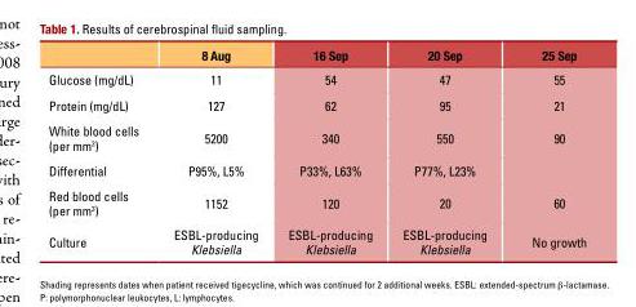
<table><thead><tr><td></td><td>8 Aug</td><td>16 Sep</td><td>20 Sep</td><td>25 Sep</td></tr></thead><tbody><tr><td>Glucose (mg/dL)</td><td></td><td>54</td><td>47</td><td>55</td></tr><tr><td>Protein (mg/dL)</td><td>27</td><td>62</td><td>95</td><td>2</td></tr><tr><td>White blood cells (per mm<sup>3</sup>)</td><td>5200</td><td>340</td><td>550</td><td>90</td></tr><tr><td>Differential</td><td>P95%, L5%</td><td>P33%, L63%</td><td>P77%, L23%</td><td></td></tr><tr><td>Red blood cells (per mm<sup>3</sup>)</td><td>52</td><td>20</td><td>20</td><td>60</td></tr><tr><td>Culture</td><td>ESBL-producing Klebsiella</td><td>ESBL-producing Klebsiella</td><td>ESBL-producing Klebsiella</td><td>No growth</td></tr></tbody></table>